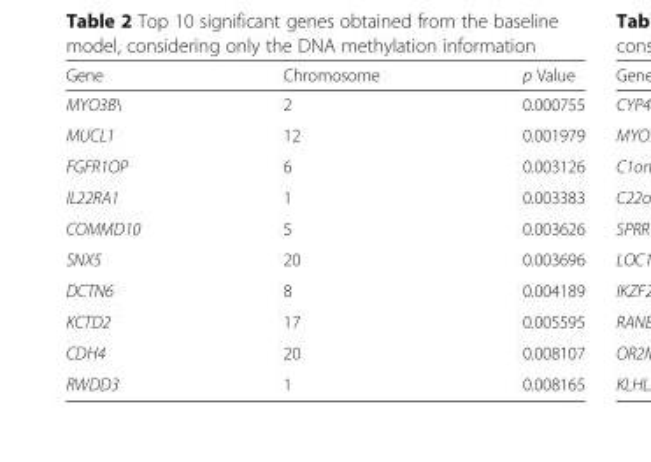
<table><thead><tr><td>Gene</td><td>Chromosome</td><td>p Value</td></tr></thead><tbody><tr><td>MYO3B\</td><td>2</td><td>0.000755</td></tr><tr><td>MUCL1</td><td>12</td><td>0.001979</td></tr><tr><td>FGFR1OP</td><td>6</td><td>0.003126</td></tr><tr><td>IL22RA1</td><td>1</td><td>0.003383</td></tr><tr><td>COMMD10</td><td>5</td><td>0.003626</td></tr><tr><td>SNX5</td><td>20</td><td>0.003696</td></tr><tr><td>DCTN6</td><td>8</td><td>0.004189</td></tr><tr><td>KCTD2</td><td>17</td><td>0.005595</td></tr><tr><td>CDH4</td><td>20</td><td>0.008107</td></tr><tr><td>RWDD3</td><td>1</td><td>0.008165</td></tr></tbody></table>